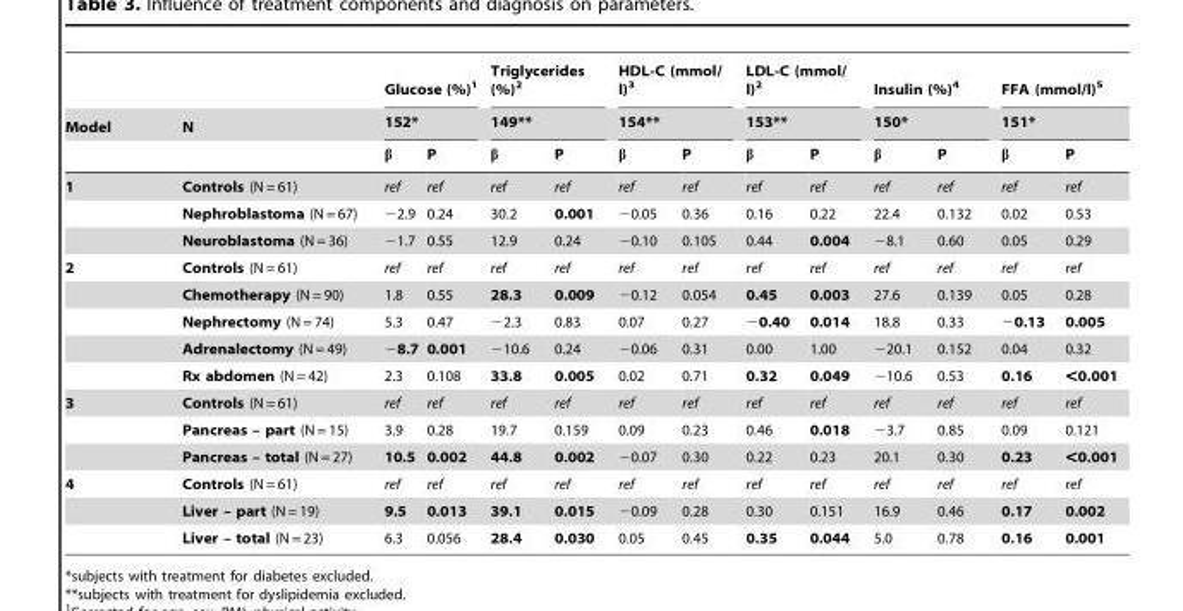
<table><thead><tr><td rowspan="3">Model</td><td rowspan="3">N</td><td rowspan="2" colspan="2">Glucose (%)<sup>1</sup> 152*</td><td rowspan="2" colspan="2">Triglycerides (%)<sup>2</sup> 149**</td><td rowspan="2" colspan="2">HDL-C (mmol/ l)<sup>3</sup> 154**</td><td rowspan="2" colspan="2">LDL-C (mmol/ l)<sup>2</sup> 153**</td><td rowspan="2" colspan="2">Insulin (%)<sup>4</sup> 150*</td><td rowspan="2" colspan="2">FFA (mmol/l)<sup>5</sup> 151*</td></tr><tr></tr><tr><td>β</td><td>P</td><td>β</td><td>P</td><td>β</td><td>P</td><td>β</td><td>P</td><td>β</td><td>P</td><td>β</td><td>P</td></tr></thead><tbody><tr><td rowspan="3">1</td><td>Controls (N = 61)</td><td>ref</td><td>ref</td><td>ref</td><td>ref</td><td>ref</td><td>ref</td><td>ref</td><td>ref</td><td>ref</td><td>ref</td><td>ref</td><td>ref</td></tr><tr><td>Nephroblastoma (N = 67)</td><td>−2.9</td><td>0.24</td><td>30.2</td><td>0.001</td><td>−0.05</td><td>0.36</td><td>0.16</td><td>0.22</td><td>22.4</td><td>0.132</td><td>0.02</td><td>0.53</td></tr><tr><td>Neuroblastoma (N = 36)</td><td>−1.7</td><td>0.55</td><td>12.9</td><td>0.24</td><td>−0.10</td><td>0.105</td><td>0.44</td><td>0.004</td><td>−8.1</td><td>0.60</td><td>0.05</td><td>0.29</td></tr><tr><td rowspan="5">2</td><td>Controls (N = 61)</td><td>ref</td><td>ref</td><td>ref</td><td>ref</td><td>ref</td><td>ref</td><td>ref</td><td>ref</td><td>ref</td><td>ref</td><td>ref</td><td>ref</td></tr><tr><td>Chemotherapy (N = 90)</td><td>1.8</td><td>0.55</td><td>28.3</td><td>0.009</td><td>−0.12</td><td>0.054</td><td>0.45</td><td>0.003</td><td>27.6</td><td>0.139</td><td>0.05</td><td>0.28</td></tr><tr><td>Nephrectomy (N = 74)</td><td>5.3</td><td>0.47</td><td>−2.3</td><td>0.83</td><td>0.07</td><td>0.27</td><td>−0.40</td><td>0.014</td><td>18.8</td><td>0.33</td><td>−0.13</td><td>0.005</td></tr><tr><td>Adrenalectomy (N = 49)</td><td>−8.7</td><td>0.001</td><td>−10.6</td><td>0.24</td><td>−0.06</td><td>0.31</td><td>0.00</td><td>1.00</td><td>−20.1</td><td>0.152</td><td>0.04</td><td>0.32</td></tr><tr><td>Rx abdomen (N = 42)</td><td>2.3</td><td>0.108</td><td>33.8</td><td>0.005</td><td>0.02</td><td>0.71</td><td>0.32</td><td>0.049</td><td>−10.6</td><td>0.53</td><td>0.16</td><td>&lt;0.001</td></tr><tr><td rowspan="3">3</td><td>Controls (N = 61)</td><td>ref</td><td>ref</td><td>ref</td><td>ref</td><td>ref</td><td>ref</td><td>ref</td><td>ref</td><td>ref</td><td>ref</td><td>ref</td><td>ref</td></tr><tr><td>Pancreas – part (N = 15)</td><td>3.9</td><td>0.28</td><td>19.7</td><td>0.159</td><td>0.09</td><td>0.23</td><td>0.46</td><td>0.018</td><td>−3.7</td><td>0.85</td><td>0.09</td><td>0.121</td></tr><tr><td>Pancreas – total (N = 27)</td><td>10.5</td><td>0.002</td><td>44.8</td><td>0.002</td><td>−0.07</td><td>0.30</td><td>0.22</td><td>0.23</td><td>20.1</td><td>0.30</td><td>0.23</td><td>&lt;0.001</td></tr><tr><td rowspan="3">4</td><td>Controls (N = 61)</td><td>ref</td><td>ref</td><td>ref</td><td>ref</td><td>ref</td><td>ref</td><td>ref</td><td>ref</td><td>ref</td><td>ref</td><td>ref</td><td>ref</td></tr><tr><td>Liver – part (N = 19)</td><td>9.5</td><td>0.013</td><td>39.1</td><td>0.015</td><td>−0.09</td><td>0.28</td><td>0.30</td><td>0.151</td><td>16.9</td><td>0.46</td><td>0.17</td><td>0.002</td></tr><tr><td>Liver – total (N = 23)</td><td>6.3</td><td>0.056</td><td>28.4</td><td>0.030</td><td>0.05</td><td>0.45</td><td>0.35</td><td>0.044</td><td>5.0</td><td>0.78</td><td>0.16</td><td>0.001</td></tr></tbody></table>